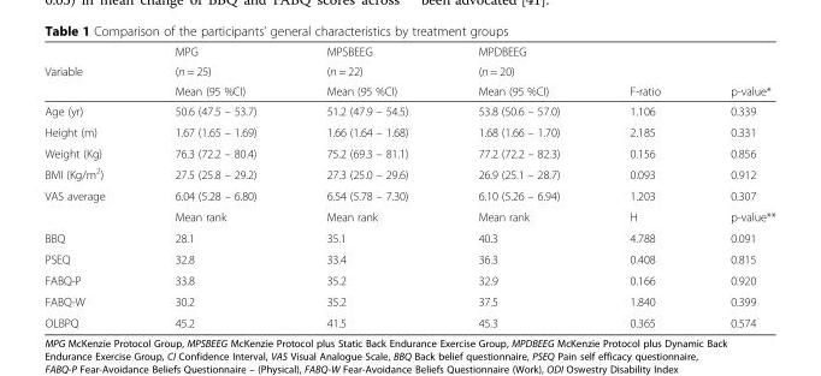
<table><thead><tr><td rowspan="3">Variable</td><td rowspan="3">MPG (n = 25) Mean (95 %CI)</td><td rowspan="3">MPSBEEG (n = 22) Mean (95 %CI)</td><td rowspan="3">MPDBEEG (n = 20) Mean (95 %CI)</td><td rowspan="3">F-ratio</td><td rowspan="3">p-value*</td></tr><tr></tr><tr></tr></thead><tbody><tr><td>Age (yr)</td><td>50.6 (47.5 – 53.7)</td><td>51.2 (47.9 – 54.5)</td><td>53.8 (50.6 – 57.0)</td><td>1.106</td><td>0.339</td></tr><tr><td>Height (m)</td><td>1.67 (1.65 – 1.69)</td><td>1.66 (1.64 – 1.68)</td><td>1.68 (1.66 – 1.70)</td><td>2.185</td><td>0.331</td></tr><tr><td>Weight (Kg)</td><td>76.3 (72.2 – 80.4)</td><td>75.2 (69.3 – 81.1)</td><td>77.2 (72.2 – 82.3)</td><td>0.156</td><td>0.856</td></tr><tr><td>BMI (Kg/m<sup>2</sup>)</td><td>27.5 (25.8 – 29.2)</td><td>27.3 (25.0 – 29.6)</td><td>26.9 (25.1 – 28.7)</td><td>0.093</td><td>0.912</td></tr><tr><td rowspan="2">VAS average</td><td>6.04 (5.28 – 6.80)</td><td>6.54 (5.78 – 7.30)</td><td>6.10 (5.26 – 6.94)</td><td>1.203</td><td>0.307</td></tr><tr><td>Mean rank</td><td>Mean rank</td><td>Mean rank</td><td>H</td><td>p-value**</td></tr><tr><td>BBQ</td><td>28.1</td><td>35.1</td><td>40.3</td><td>4.788</td><td>0.091</td></tr><tr><td>PSEQ</td><td>32.8</td><td>33.4</td><td>36.3</td><td>0.408</td><td>0.815</td></tr><tr><td>FABQ-P</td><td>33.8</td><td>35.2</td><td>32.9</td><td>0.166</td><td>0.920</td></tr><tr><td>FABQ-W</td><td>30.2</td><td>35.2</td><td>37.5</td><td>1.840</td><td>0.399</td></tr><tr><td>OLBPQ</td><td>45.2</td><td>41.5</td><td>45.3</td><td>0.365</td><td>0.574</td></tr></tbody></table>